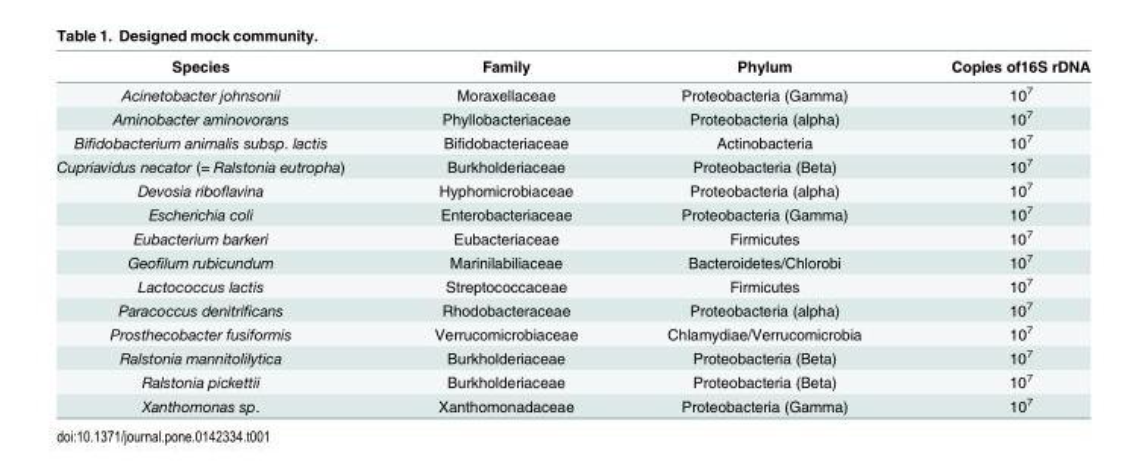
<table><thead><tr><td>Species</td><td>Family</td><td>Phylum</td><td>Copies of16S rDNA</td></tr></thead><tbody><tr><td>Acinetobacter johnsonii</td><td>Moraxellaceae</td><td>Proteobacteria (Gamma)</td><td>10<sup>7</sup></td></tr><tr><td>Aminobacter aminovorans</td><td>Phyllobacteriaceae</td><td>Proteobacteria (alpha)</td><td>10<sup>7</sup></td></tr><tr><td>Bifidobacterium animalis subsp. lactis</td><td>Bifidobacteriaceae</td><td>Actinobacteria</td><td>10<sup>7</sup></td></tr><tr><td>Cupriavidus necator (= Ralstonia eutropha)</td><td>Burkholderiaceae</td><td>Proteobacteria (Beta)</td><td>10<sup>7</sup></td></tr><tr><td>Devosia riboflavina</td><td>Hyphomicrobiaceae</td><td>Proteobacteria (alpha)</td><td>10<sup>7</sup></td></tr><tr><td>Escherichia coli</td><td>Enterobacteriaceae</td><td>Proteobacteria (Gamma)</td><td>10<sup>7</sup></td></tr><tr><td>Eubacterium barkeri</td><td>Eubacteriaceae</td><td>Firmicutes</td><td>10<sup>7</sup></td></tr><tr><td>Geofilum rubicundum</td><td>Marinilabiliaceae</td><td>Bacteroidetes/Chlorobi</td><td>10<sup>7</sup></td></tr><tr><td>Lactococcus lactis</td><td>Streptococcaceae</td><td>Firmicutes</td><td>10<sup>7</sup></td></tr><tr><td>Paracoccus denitrificans</td><td>Rhodobacteraceae</td><td>Proteobacteria (alpha)</td><td>10<sup>7</sup></td></tr><tr><td>Prosthecobacter fusiformis</td><td>Verrucomicrobiaceae</td><td>Chlamydiae/Verrucomicrobia</td><td>10<sup>7</sup></td></tr><tr><td>Ralstonia mannitolilytica</td><td>Burkholderiaceae</td><td>Proteobacteria (Beta)</td><td>10<sup>7</sup></td></tr><tr><td>Ralstonia pickettii</td><td>Burkholderiaceae</td><td>Proteobacteria (Beta)</td><td>10<sup>7</sup></td></tr><tr><td>Xanthomonas sp.</td><td>Xanthomonadaceae</td><td>Proteobacteria (Gamma)</td><td>10<sup>7</sup></td></tr></tbody></table>